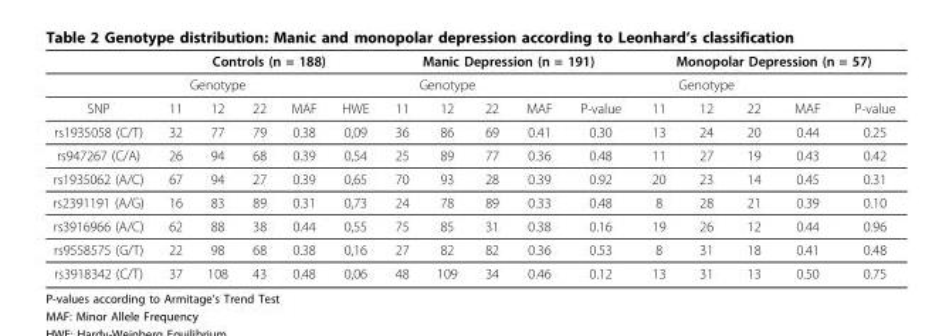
<table><thead><tr><td rowspan="3">SNP</td><td colspan="5">Controls (n = 188)</td><td colspan="5">Manic Depression (n = 191)</td><td colspan="5">Monopolar Depression (n = 57)</td></tr><tr><td colspan="3">Genotype</td><td colspan="2"></td><td colspan="3">Genotype</td><td colspan="2"></td><td colspan="3">Genotype</td><td colspan="2"></td></tr><tr><td>11</td><td>12</td><td>22</td><td>MAF</td><td>HWE</td><td>11</td><td>12</td><td>22</td><td>MAF</td><td>P-value</td><td>11</td><td>12</td><td>22</td><td>MAF</td><td>P-value</td></tr></thead><tbody><tr><td>rs1935058 (C/T)</td><td>32</td><td>77</td><td>79</td><td>0.38</td><td>0,09</td><td>36</td><td>86</td><td>69</td><td>0.41</td><td>0.30</td><td>13</td><td>24</td><td>20</td><td>0.44</td><td>0.25</td></tr><tr><td>rs947267 (C/A)</td><td>26</td><td>94</td><td>68</td><td>0.39</td><td>0,54</td><td>25</td><td>89</td><td>77</td><td>0.36</td><td>0.48</td><td>11</td><td>27</td><td>19</td><td>0.43</td><td>0.42</td></tr><tr><td>rs1935062 (A/C)</td><td>67</td><td>94</td><td>27</td><td>0.39</td><td>0,65</td><td>70</td><td>93</td><td>28</td><td>0.39</td><td>0.92</td><td>20</td><td>23</td><td>14</td><td>0.45</td><td>0.31</td></tr><tr><td>rs2391191 (A/G)</td><td>16</td><td>83</td><td>89</td><td>0.31</td><td>0,73</td><td>24</td><td>78</td><td>89</td><td>0.33</td><td>0.48</td><td>8</td><td>28</td><td>21</td><td>0.39</td><td>0.10</td></tr><tr><td>rs3916966 (A/C)</td><td>62</td><td>88</td><td>38</td><td>0.44</td><td>0,55</td><td>75</td><td>85</td><td>31</td><td>0.38</td><td>0.16</td><td>19</td><td>26</td><td>12</td><td>0.44</td><td>0.96</td></tr><tr><td>rs9558575 (G/T)</td><td>22</td><td>98</td><td>68</td><td>0.38</td><td>0,16</td><td>27</td><td>82</td><td>82</td><td>0.36</td><td>0.53</td><td>8</td><td>31</td><td>18</td><td>0.41</td><td>0.48</td></tr><tr><td>rs3918342 (C/T)</td><td>37</td><td>108</td><td>43</td><td>0.48</td><td>0,06</td><td>48</td><td>109</td><td>34</td><td>0.46</td><td>0.12</td><td>13</td><td>31</td><td>13</td><td>0.50</td><td>0.75</td></tr></tbody></table>